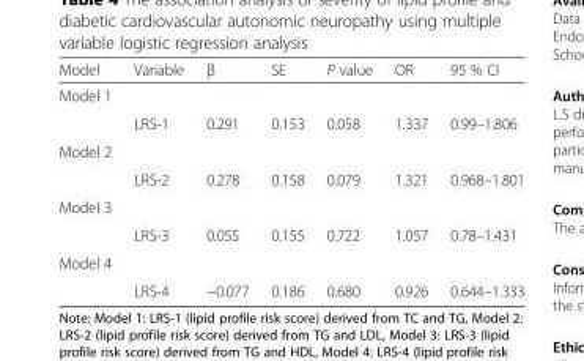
<table><thead><tr><td>Model</td><td>Variable</td><td>β</td><td>SE</td><td>P value</td><td>OR</td><td>95 % CI</td></tr></thead><tbody><tr><td colspan="7">Model 1</td></tr><tr><td></td><td>LRS-1</td><td>0.291</td><td>0.153</td><td>0.058</td><td>1.337</td><td>0.99–1.806</td></tr><tr><td colspan="7">Model 2</td></tr><tr><td></td><td>LRS-2</td><td>0.278</td><td>0.158</td><td>0.079</td><td>1.321</td><td>0.968–1.801</td></tr><tr><td colspan="7">Model 3</td></tr><tr><td></td><td>LRS-3</td><td>0.055</td><td>0.155</td><td>0.722</td><td>1.057</td><td>0.78–1.431</td></tr><tr><td colspan="7">Model 4</td></tr><tr><td></td><td>LRS-4</td><td>−0.077</td><td>0.186</td><td>0.680</td><td>0.926</td><td>0.644–1.333</td></tr></tbody></table>